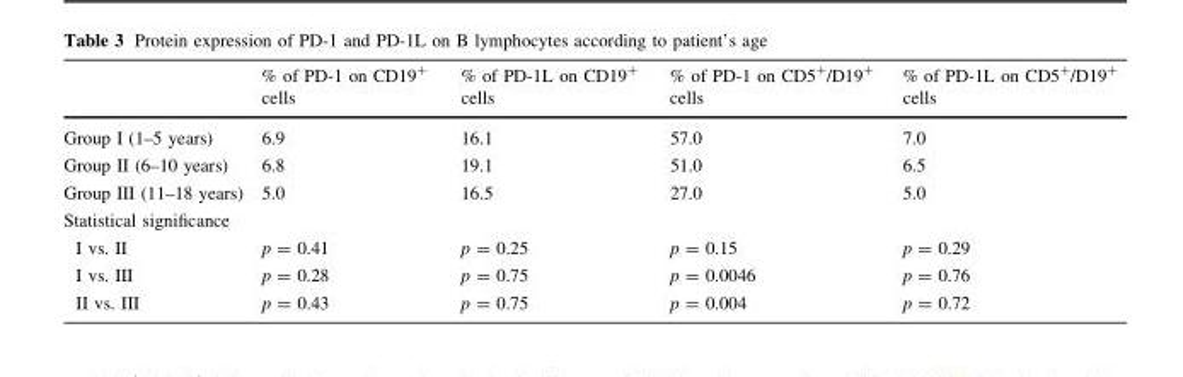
<table><thead><tr><td></td><td>% of PD-1 on CD19<sup>+</sup> cells</td><td>% of PD-1L on CD19<sup>+</sup> cells</td><td>% of PD-1 on CD5<sup>+</sup>/D19<sup>+</sup> cells</td><td>% of PD-1L on CD5<sup>+</sup>/D19<sup>+</sup> cells</td></tr></thead><tbody><tr><td>Group I (1–5 years)</td><td>6.9</td><td>16.1</td><td>57.0</td><td>7.0</td></tr><tr><td>Group II (6–10 years)</td><td>6.8</td><td>19.1</td><td>51.0</td><td>6.5</td></tr><tr><td>Group III (11–18 years)</td><td>5.0</td><td>16.5</td><td>27.0</td><td>5.0</td></tr><tr><td colspan="5">Statistical significance</td></tr><tr><td>I vs. II</td><td>p = 0.41</td><td>p = 0.25</td><td>p = 0.15</td><td>p = 0.29</td></tr><tr><td>I vs. III</td><td>p = 0.28</td><td>p = 0.75</td><td>p = 0.0046</td><td>p = 0.76</td></tr><tr><td>II vs. III</td><td>p = 0.43</td><td>p = 0.75</td><td>p = 0.004</td><td>p = 0.72</td></tr></tbody></table>